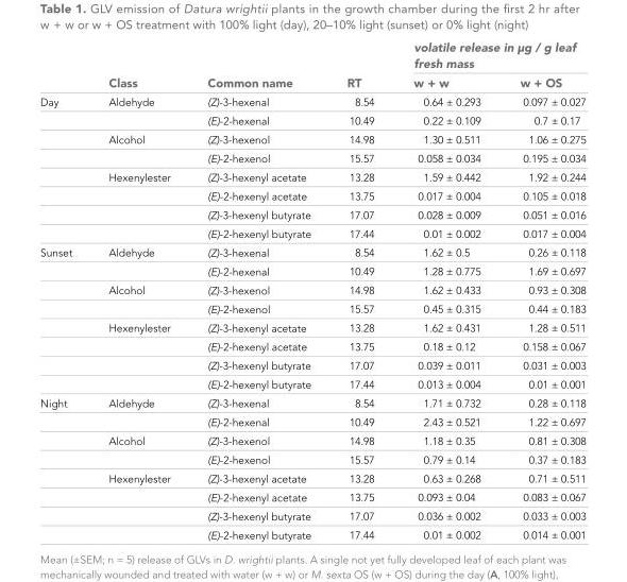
<table><thead><tr><td rowspan="2"></td><td rowspan="2">Class</td><td rowspan="2">Common name</td><td rowspan="2">RT</td><td colspan="2">volatile release in µg / g leaf fresh mass</td></tr><tr><td>w + w</td><td>w + OS</td></tr></thead><tbody><tr><td rowspan="8">Day</td><td>Aldehyde</td><td>(Z)-3-hexenal</td><td>8.54</td><td>0.64 ± 0.293</td><td>0.097 ± 0.027</td></tr><tr><td></td><td>(E)-2-hexenal</td><td>10.49</td><td>0.22 ± 0.109</td><td>0.7 ± 0.17</td></tr><tr><td>Alcohol</td><td>(Z)-3-hexenol</td><td>14.98</td><td>1.30 ± 0.511</td><td>1.06 ± 0.275</td></tr><tr><td></td><td>(E)-2-hexenol</td><td>15.57</td><td>0.058 ± 0.034</td><td>0.195 ± 0.034</td></tr><tr><td>Hexenylester</td><td>(Z)-3-hexenyl acetate</td><td>13.28</td><td>1.59 ± 0.442</td><td>1.92 ± 0.244</td></tr><tr><td></td><td>(E)-2-hexenyl acetate</td><td>13.75</td><td>0.017 ± 0.004</td><td>0.105 ± 0.018</td></tr><tr><td></td><td>(Z)-3-hexenyl butyrate</td><td>17.07</td><td>0.028 ± 0.009</td><td>0.051 ± 0.016</td></tr><tr><td></td><td>(E)-2-hexenyl butyrate</td><td>17.44</td><td>0.01 ± 0.002</td><td>0.017 ± 0.004</td></tr><tr><td rowspan="8">Sunset</td><td>Aldehyde</td><td>(Z)-3-hexenal</td><td>8.54</td><td>1.62 ± 0.5</td><td>0.26 ± 0.118</td></tr><tr><td></td><td>(E)-2-hexenal</td><td>10.49</td><td>1.28 ± 0.775</td><td>1.69 ± 0.697</td></tr><tr><td>Alcohol</td><td>(Z)-3-hexenol</td><td>14.98</td><td>1.62 ± 0.433</td><td>0.93 ± 0.308</td></tr><tr><td></td><td>(E)-2-hexenol</td><td>15.57</td><td>0.45 ± 0.315</td><td>0.44 ± 0.183</td></tr><tr><td>Hexenylester</td><td>(Z)-3-hexenyl acetate</td><td>13.28</td><td>1.62 ± 0.431</td><td>1.28 ± 0.511</td></tr><tr><td></td><td>(E)-2-hexenyl acetate</td><td>13.75</td><td>0.18 ± 0.12</td><td>0.158 ± 0.067</td></tr><tr><td></td><td>(Z)-3-hexenyl butyrate</td><td>17.07</td><td>0.039 ± 0.011</td><td>0.031 ± 0.003</td></tr><tr><td></td><td>(E)-2-hexenyl butyrate</td><td>17.44</td><td>0.013 ± 0.004</td><td>0.01 ± 0.001</td></tr><tr><td rowspan="8">Night</td><td>Aldehyde</td><td>(Z)-3-hexenal</td><td>8.54</td><td>1.71 ± 0.732</td><td>0.28 ± 0.118</td></tr><tr><td></td><td>(E)-2-hexenal</td><td>10.49</td><td>2.43 ± 0.521</td><td>1.22 ± 0.697</td></tr><tr><td>Alcohol</td><td>(Z)-3-hexenol</td><td>14.98</td><td>1.18 ± 0.35</td><td>0.81 ± 0.308</td></tr><tr><td></td><td>(E)-2-hexenol</td><td>15.57</td><td>0.79 ± 0.14</td><td>0.37 ± 0.183</td></tr><tr><td>Hexenylester</td><td>(Z)-3-hexenyl acetate</td><td>13.28</td><td>0.63 ± 0.268</td><td>0.71 ± 0.511</td></tr><tr><td></td><td>(E)-2-hexenyl acetate</td><td>13.75</td><td>0.093 ± 0.04</td><td>0.083 ± 0.067</td></tr><tr><td></td><td>(Z)-3-hexenyl butyrate</td><td>17.07</td><td>0.036 ± 0.002</td><td>0.033 ± 0.003</td></tr><tr><td></td><td>(E)-2-hexenyl butyrate</td><td>17.44</td><td>0.01 ± 0.002</td><td>0.014 ± 0.001</td></tr></tbody></table>